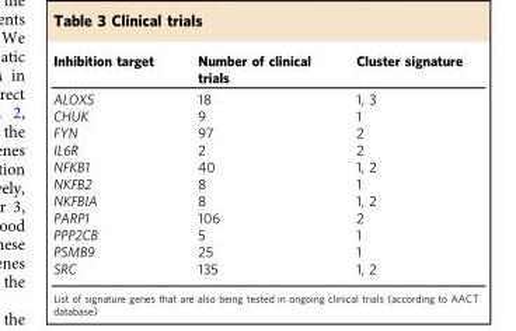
<table><thead><tr><td>Inhibition target</td><td>Number of clinical trials</td><td>Cluster signature</td></tr></thead><tbody><tr><td>ALOX5</td><td>18</td><td>1, 3</td></tr><tr><td>CHUK</td><td>9</td><td>1</td></tr><tr><td>FYN</td><td>97</td><td>2</td></tr><tr><td>IL6R</td><td>2</td><td>2</td></tr><tr><td>NFKB1</td><td>40</td><td>1, 2</td></tr><tr><td>NKFB2</td><td>8</td><td>1</td></tr><tr><td>NKFBIA</td><td>8</td><td>1, 2</td></tr><tr><td>PARP1</td><td>106</td><td>2</td></tr><tr><td>PPP2CB</td><td>5</td><td>1</td></tr><tr><td>PSMB9</td><td>25</td><td>1</td></tr><tr><td>SRC</td><td>135</td><td>1, 2</td></tr></tbody></table>